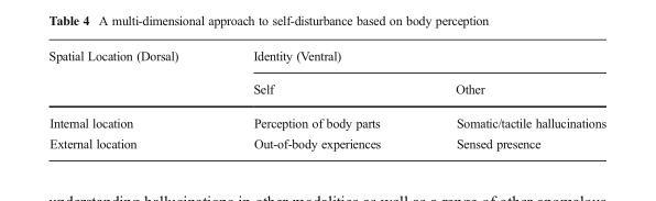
<table><thead><tr><td rowspan="2">Spatial Location (Dorsal)</td><td colspan="2">Identity (Ventral)</td></tr><tr><td>Self</td><td>Other</td></tr></thead><tbody><tr><td>Internal location</td><td>Perception of body parts</td><td>Somatic/tactile hallucinations</td></tr><tr><td>External location</td><td>Out-of-body experiences</td><td>Sensed presence</td></tr></tbody></table>